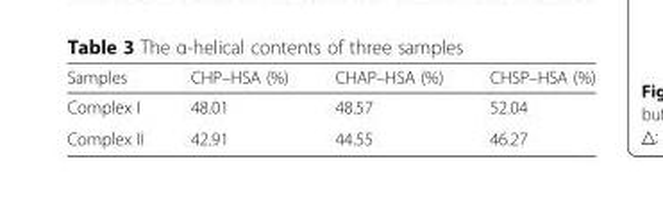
<table><thead><tr><td>Samples</td><td>CHP–HSA (%)</td><td>CHAP–HSA (%)</td><td>CHSP–HSA (%)</td></tr></thead><tbody><tr><td>Complex I</td><td>48.01</td><td>48.57</td><td>52.04</td></tr><tr><td>Complex II</td><td>42.91</td><td>44.55</td><td>46.27</td></tr></tbody></table>